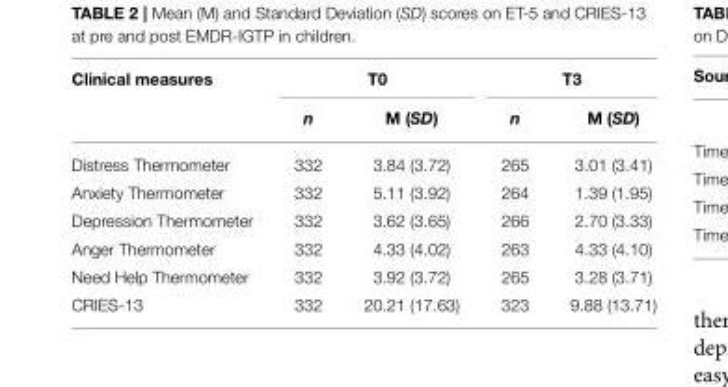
<table><thead><tr><td rowspan="2">Clinical measures</td><td colspan="2">T0</td><td colspan="2">T3</td></tr><tr><td>n</td><td>M (SD)</td><td>n</td><td>M (SD)</td></tr></thead><tbody><tr><td>Distress Thermometer</td><td>332</td><td>3.84 (3.72)</td><td>265</td><td>3.01 (3.41)</td></tr><tr><td>Anxiety Thermometer</td><td>332</td><td>5.11 (3.92)</td><td>264</td><td>1.39 (1.95)</td></tr><tr><td>Depression Thermometer</td><td>332</td><td>3.62 (3.65)</td><td>266</td><td>2.70 (3.33)</td></tr><tr><td>Anger Thermometer</td><td>332</td><td>4.33 (4.02)</td><td>263</td><td>4.33 (4.10)</td></tr><tr><td>Need Help Thermometer</td><td>332</td><td>3.92 (3.72)</td><td>265</td><td>3.28 (3.71)</td></tr><tr><td>CRIES-13</td><td>332</td><td>20.21 (17.63)</td><td>323</td><td>9.88 (13.71)</td></tr></tbody></table>